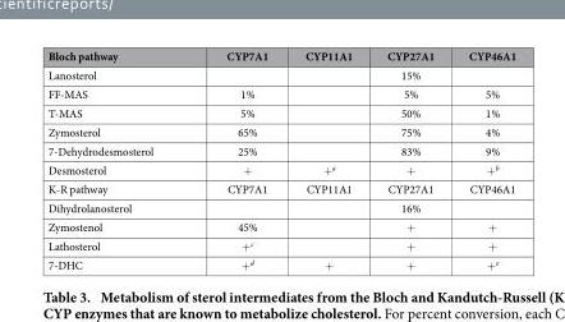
<table><thead><tr><td>Bloch pathway</td><td>CYP7A1</td><td>CYP11A1</td><td>CYP27A1</td><td>CYP46A1</td></tr></thead><tbody><tr><td>Lanosterol</td><td></td><td></td><td>15%</td><td></td></tr><tr><td>FF-MAS</td><td>1%</td><td></td><td>5%</td><td>5%</td></tr><tr><td>T-MAS</td><td>5%</td><td></td><td>50%</td><td>1%</td></tr><tr><td>Zymosterol</td><td>65%</td><td></td><td>75%</td><td>4%</td></tr><tr><td>7-Dehydrodesmosterol</td><td>25%</td><td></td><td>83%</td><td>9%</td></tr><tr><td>Desmosterol</td><td>+</td><td>+ <sup>a</sup></td><td>+</td><td>+ <sup>b</sup></td></tr><tr><td>K-R pathway</td><td>CYP7A1</td><td>CYP11A1</td><td>CYP27A1</td><td>CYP46A1</td></tr><tr><td>Dihydrolanosterol</td><td></td><td></td><td>16%</td><td></td></tr><tr><td>Zymostenol</td><td>45%</td><td></td><td>+</td><td>+</td></tr><tr><td>Lathosterol</td><td>+ <sup>c</sup></td><td></td><td>+</td><td>+</td></tr><tr><td>7-DHC</td><td>+ <sup>d</sup></td><td>+</td><td>+</td><td>+ <sup>e</sup></td></tr></tbody></table>